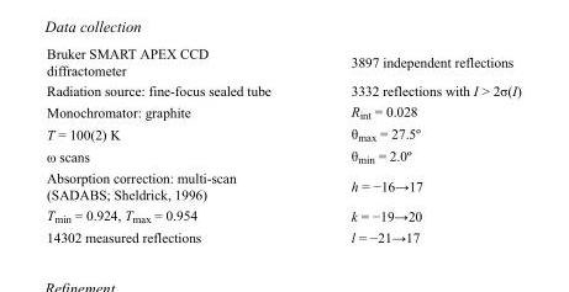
<table><tbody><tr><td>Bruker SMART APEX CCD diffractometer</td><td>3897 independent reflections</td></tr><tr><td>Radiation source: fine-focus sealed tube</td><td>3332 reflections with I &gt; 2σ(I)</td></tr><tr><td>Monochromator: graphite</td><td>R<sub>int</sub> = 0.028</td></tr><tr><td>T = 100(2) K</td><td>θ<sub>max</sub> = 27.5º</td></tr><tr><td>ω scans</td><td>θ<sub>min</sub> = 2.0º</td></tr><tr><td>Absorption correction: multi-scan (SADABS; Sheldrick, 1996)</td><td>h = −16→17</td></tr><tr><td>T<sub>min</sub> = 0.924, T<sub>max</sub> = 0.954</td><td>k = −19→20</td></tr><tr><td>14302 measured reflections</td><td>l = −21→17</td></tr></tbody></table>